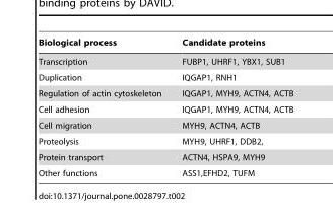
<table><thead><tr><td>Biological process</td><td>Candidate proteins</td></tr></thead><tbody><tr><td>Transcription</td><td>FUBP1, UHRF1, YBX1, SUB1</td></tr><tr><td>Duplication</td><td>IQGAP1, RNH1</td></tr><tr><td>Regulation of actin cytoskeleton</td><td>IQGAP1, MYH9, ACTN4, ACTB</td></tr><tr><td>Cell adhesion</td><td>IQGAP1, MYH9, ACTN4, ACTB</td></tr><tr><td>Cell migration</td><td>MYH9, ACTN4, ACTB</td></tr><tr><td>Proteolysis</td><td>MYH9, UHRF1, DDB2,</td></tr><tr><td>Protein transport</td><td>ACTN4, HSPA9, MYH9</td></tr><tr><td>Other functions</td><td>ASS1,EFHD2, TUFM</td></tr></tbody></table>